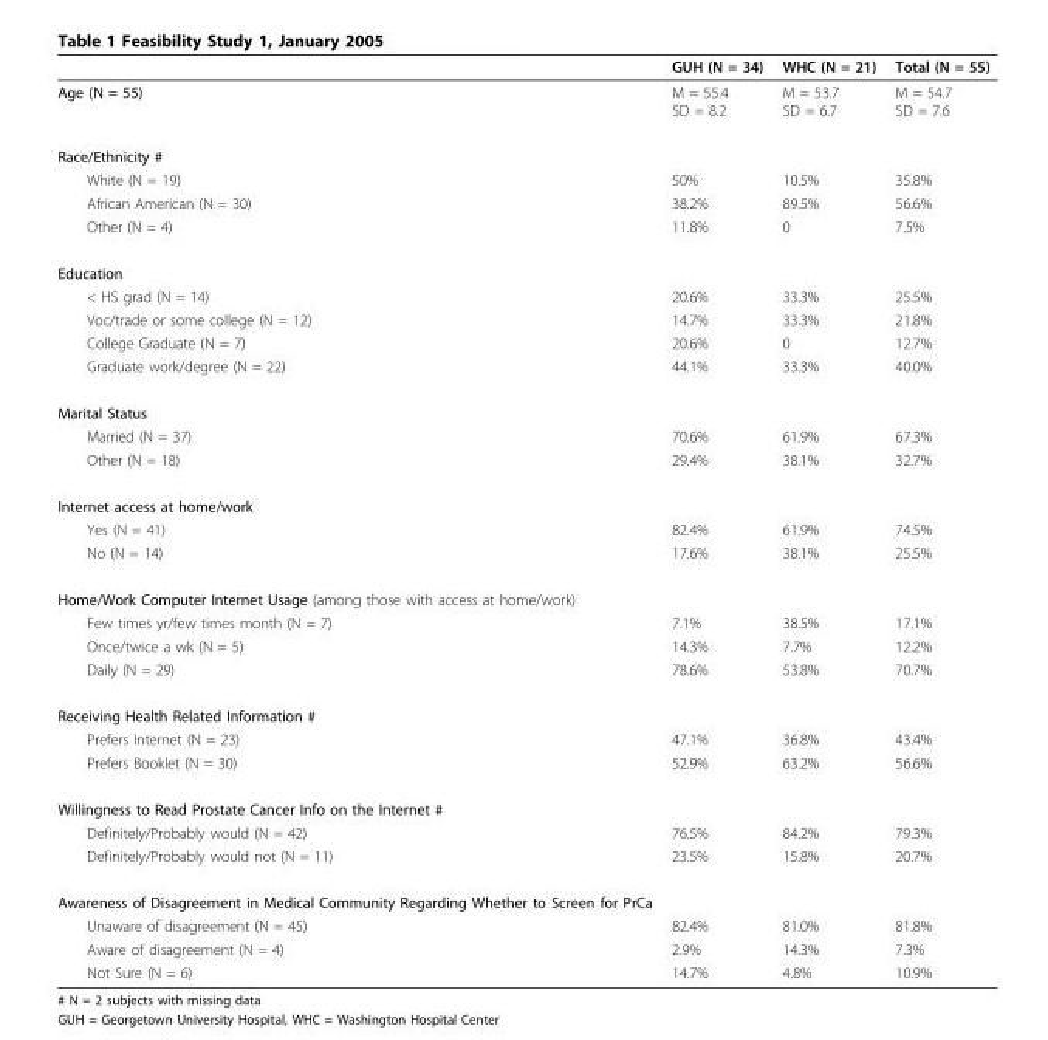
<table><thead><tr><td></td><td>GUH (N = 34)</td><td>WHC (N = 21)</td><td>Total (N = 55)</td></tr></thead><tbody><tr><td>Age (N = 55)</td><td>M = 55.4 SD = 8.2</td><td>M = 53.7 SD = 6.7</td><td>M = 54.7 SD = 7.6</td></tr><tr><td colspan="4">Race/Ethnicity #</td></tr><tr><td>White (N = 19)</td><td>50%</td><td>10.5%</td><td>35.8%</td></tr><tr><td>African American (N = 30)</td><td>38.2%</td><td>89.5%</td><td>56.6%</td></tr><tr><td>Other (N = 4)</td><td>11.8%</td><td>0</td><td>7.5%</td></tr><tr><td colspan="4">Education</td></tr><tr><td>&lt; HS grad (N = 14)</td><td>20.6%</td><td>33.3%</td><td>25.5%</td></tr><tr><td>Voc/trade or some college (N = 12)</td><td>14.7%</td><td>33.3%</td><td>21.8%</td></tr><tr><td>College Graduate (N = 7)</td><td>20.6%</td><td>0</td><td>12.7%</td></tr><tr><td>Graduate work/degree (N = 22)</td><td>44.1%</td><td>33.3%</td><td>40.0%</td></tr><tr><td colspan="4">Marital Status</td></tr><tr><td>Married (N = 37)</td><td>70.6%</td><td>61.9%</td><td>67.3%</td></tr><tr><td>Other (N = 18)</td><td>29.4%</td><td>38.1%</td><td>32.7%</td></tr><tr><td colspan="4">Internet access at home/work</td></tr><tr><td>Yes (N = 41)</td><td>82.4%</td><td>61.9%</td><td>74.5%</td></tr><tr><td>No (N = 14)</td><td>17.6%</td><td>38.1%</td><td>25.5%</td></tr><tr><td colspan="4">Home/Work Computer Internet Usage (among those with access at home/work)</td></tr><tr><td>Few times yr/few times month (N = 7)</td><td>7.1%</td><td>38.5%</td><td>17.1%</td></tr><tr><td>Once/twice a wk (N = 5)</td><td>14.3%</td><td>7.7%</td><td>12.2%</td></tr><tr><td>Daily (N = 29)</td><td>78.6%</td><td>53.8%</td><td>70.7%</td></tr><tr><td colspan="4">Receiving Health Related Information #</td></tr><tr><td>Prefers Internet (N = 23)</td><td>47.1%</td><td>36.8%</td><td>43.4%</td></tr><tr><td>Prefers Booklet (N = 30)</td><td>52.9%</td><td>63.2%</td><td>56.6%</td></tr><tr><td colspan="4">Willingness to Read Prostate Cancer Info on the Internet #</td></tr><tr><td>Definitely/Probably would (N = 42)</td><td>76.5%</td><td>84.2%</td><td>79.3%</td></tr><tr><td>Definitely/Probably would not (N = 11)</td><td>23.5%</td><td>15.8%</td><td>20.7%</td></tr><tr><td colspan="4">Awareness of Disagreement in Medical Community Regarding Whether to Screen for PrCa</td></tr><tr><td>Unaware of disagreement (N = 45)</td><td>82.4%</td><td>81.0%</td><td>81.8%</td></tr><tr><td>Aware of disagreement (N = 4)</td><td>2.9%</td><td>14.3%</td><td>7.3%</td></tr><tr><td>Not Sure (N = 6)</td><td>14.7%</td><td>4.8%</td><td>10.9%</td></tr></tbody></table>